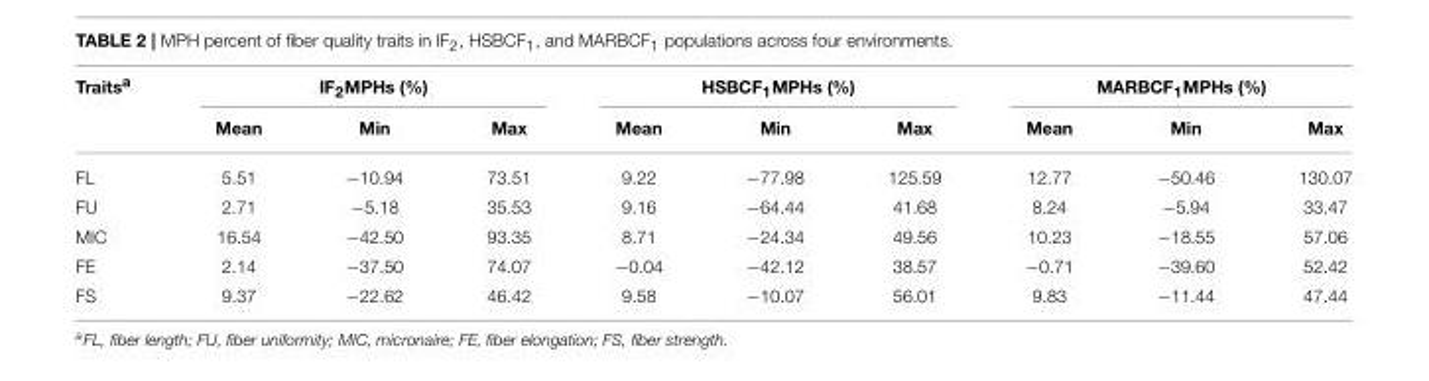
<table><thead><tr><td rowspan="2">Traits<sup>a</sup></td><td colspan="3">IF<sub>2</sub>MPHs (%)</td><td colspan="3">HSBCF<sub>1</sub>MPHs (%)</td><td colspan="3">MARBCF<sub>1</sub>MPHs (%)</td></tr><tr><td>Mean</td><td>Min</td><td>Max</td><td>Mean</td><td>Min</td><td>Max</td><td>Mean</td><td>Min</td><td>Max</td></tr></thead><tbody><tr><td>FL</td><td>5.51</td><td>−10.94</td><td>73.51</td><td>9.22</td><td>−77.98</td><td>125.59</td><td>12.77</td><td>−50.46</td><td>130.07</td></tr><tr><td>FU</td><td>2.71</td><td>−5.18</td><td>35.53</td><td>9.16</td><td>−64.44</td><td>41.68</td><td>8.24</td><td>−5.94</td><td>33.47</td></tr><tr><td>MIC</td><td>16.54</td><td>−42.50</td><td>93.35</td><td>8.71</td><td>−24.34</td><td>49.56</td><td>10.23</td><td>−18.55</td><td>57.06</td></tr><tr><td>FE</td><td>2.14</td><td>−37.50</td><td>74.07</td><td>−0.04</td><td>−42.12</td><td>38.57</td><td>−0.71</td><td>−39.60</td><td>52.42</td></tr><tr><td>FS</td><td>9.37</td><td>−22.62</td><td>46.42</td><td>9.58</td><td>−10.07</td><td>56.01</td><td>9.83</td><td>−11.44</td><td>47.44</td></tr></tbody></table>